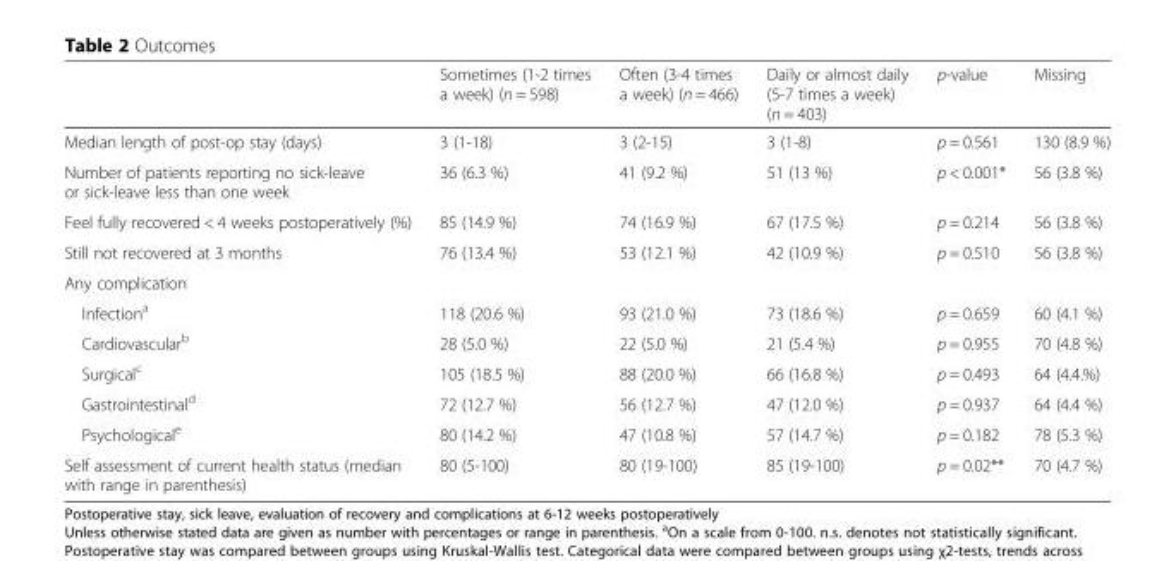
<table><thead><tr><td></td><td>Sometimes (1-2 times a week) (n = 598)</td><td>Often (3-4 times a week) (n = 466)</td><td>Daily or almost daily (5-7 times a week) (n = 403)</td><td>p-value</td><td>Missing</td></tr></thead><tbody><tr><td>Median length of post-op stay (days)</td><td>3 (1-18)</td><td>3 (2-15)</td><td>3 (1-8)</td><td>p = 0.561</td><td>130 (8.9 %)</td></tr><tr><td>Number of patients reporting no sick-leave or sick-leave less than one week</td><td>36 (6.3 %)</td><td>41 (9.2 %)</td><td>51 (13 %)</td><td>p &lt; 0.001*</td><td>56 (3.8 %)</td></tr><tr><td>Feel fully recovered &lt; 4 weeks postoperatively (%)</td><td>85 (14.9 %)</td><td>74 (16.9 %)</td><td>67 (17.5 %)</td><td>p = 0.214</td><td>56 (3.8 %)</td></tr><tr><td>Still not recovered at 3 months</td><td>76 (13.4 %)</td><td>53 (12.1 %)</td><td>42 (10.9 %)</td><td>p = 0.510</td><td>56 (3.8 %)</td></tr><tr><td colspan="6">Any complication</td></tr><tr><td>Infection<sup>a</sup></td><td>118 (20.6 %)</td><td>93 (21.0 %)</td><td>73 (18.6 %)</td><td>p = 0.659</td><td>60 (4.1 %)</td></tr><tr><td>Cardiovascular<sup>b</sup></td><td>28 (5.0 %)</td><td>22 (5.0 %)</td><td>21 (5.4 %)</td><td>p = 0.955</td><td>70 (4.8 %)</td></tr><tr><td>Surgical<sup>c</sup></td><td>105 (18.5 %)</td><td>88 (20.0 %)</td><td>66 (16.8 %)</td><td>p = 0.493</td><td>64 (4.4.%)</td></tr><tr><td>Gastrointestinal<sup>d</sup></td><td>72 (12.7 %)</td><td>56 (12.7 %)</td><td>47 (12.0 %)</td><td>p = 0.937</td><td>64 (4.4 %)</td></tr><tr><td>Psychological<sup>e</sup></td><td>80 (14.2 %)</td><td>47 (10.8 %)</td><td>57 (14.7 %)</td><td>p = 0.182</td><td>78 (5.3 %)</td></tr><tr><td>Self assessment of current health status (median with range in parenthesis)</td><td>80 (5-100)</td><td>80 (19-100)</td><td>85 (19-100)</td><td>p = 0.02**</td><td>70 (4.7 %)</td></tr></tbody></table>